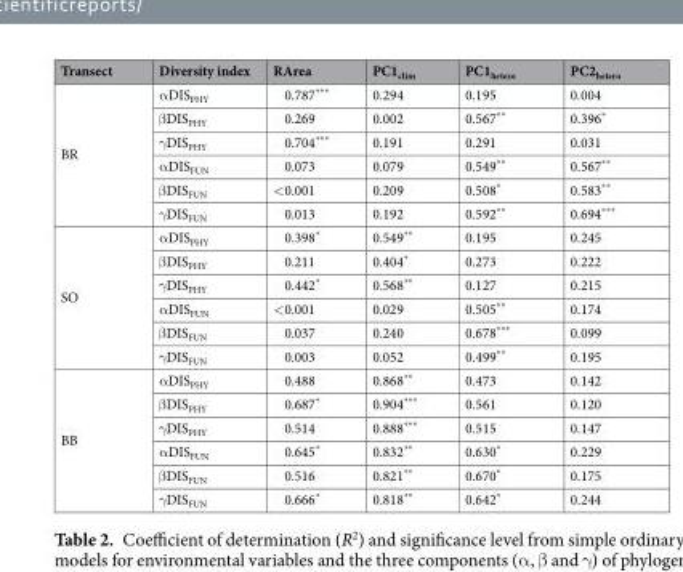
<table><thead><tr><td>Transect</td><td>Diversity index</td><td>RArea</td><td>PC1<sub>clim</sub></td><td>PC1<sub>hetero</sub></td><td>PC2<sub>hetero</sub></td></tr></thead><tbody><tr><td rowspan="6">BR</td><td>αDIS<sub>PHY</sub></td><td>0.787***</td><td>0.294</td><td>0.195</td><td>0.004</td></tr><tr><td>βDIS<sub>PHY</sub></td><td>0.269</td><td>0.002</td><td>0.567**</td><td>0.396*</td></tr><tr><td>γDIS<sub>PHY</sub></td><td>0.704***</td><td>0.191</td><td>0.291</td><td>0.031</td></tr><tr><td>αDIS<sub>FUN</sub></td><td>0.073</td><td>0.079</td><td>0.549**</td><td>0.567**</td></tr><tr><td>βDIS<sub>FUN</sub></td><td>&lt;0.001</td><td>0.209</td><td>0.508*</td><td>0.583**</td></tr><tr><td>γDIS<sub>FUN</sub></td><td>0.013</td><td>0.192</td><td>0.592**</td><td>0.694***</td></tr><tr><td rowspan="6">SO</td><td>αDIS<sub>PHY</sub></td><td>0.398*</td><td>0.549**</td><td>0.195</td><td>0.245</td></tr><tr><td>βDIS<sub>PHY</sub></td><td>0.211</td><td>0.404*</td><td>0.273</td><td>0.222</td></tr><tr><td>γDIS<sub>PHY</sub></td><td>0.442*</td><td>0.568**</td><td>0.127</td><td>0.215</td></tr><tr><td>αDIS<sub>FUN</sub></td><td>&lt;0.001</td><td>0.029</td><td>0.505**</td><td>0.174</td></tr><tr><td>βDIS<sub>FUN</sub></td><td>0.037</td><td>0.240</td><td>0.678***</td><td>0.099</td></tr><tr><td>γDIS<sub>FUN</sub></td><td>0.003</td><td>0.052</td><td>0.499**</td><td>0.195</td></tr><tr><td rowspan="6">BB</td><td>αDIS<sub>PHY</sub></td><td>0.488</td><td>0.868**</td><td>0.473</td><td>0.142</td></tr><tr><td>βDIS<sub>PHY</sub></td><td>0.687*</td><td>0.904***</td><td>0.561</td><td>0.120</td></tr><tr><td>γDIS<sub>PHY</sub></td><td>0.514</td><td>0.888***</td><td>0.515</td><td>0.147</td></tr><tr><td>αDIS<sub>FUN</sub></td><td>0.645*</td><td>0.832**</td><td>0.630*</td><td>0.229</td></tr><tr><td>βDIS<sub>FUN</sub></td><td>0.516</td><td>0.821**</td><td>0.670*</td><td>0.175</td></tr><tr><td>γDIS<sub>FUN</sub></td><td>0.666*</td><td>0.818**</td><td>0.642*</td><td>0.244</td></tr></tbody></table>